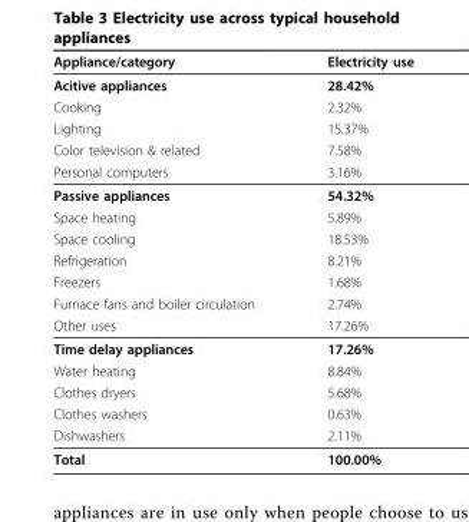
<table><thead><tr><td>Appliance/category</td><td>Electricity use</td></tr></thead><tbody><tr><td>Acitive appliances</td><td>28.42%</td></tr><tr><td>Cooking</td><td>2.32%</td></tr><tr><td>Lighting</td><td>15.37%</td></tr><tr><td>Color television &amp; related</td><td>7.58%</td></tr><tr><td>Personal computers</td><td>3.16%</td></tr><tr><td>Passive appliances</td><td>54.32%</td></tr><tr><td>Space heating</td><td>5.89%</td></tr><tr><td>Space cooling</td><td>18.53%</td></tr><tr><td>Refrigeration</td><td>8.21%</td></tr><tr><td>Freezers</td><td>1.68%</td></tr><tr><td>Furnace fans and boiler circulation</td><td>2.74%</td></tr><tr><td>Other uses</td><td>17.26%</td></tr><tr><td>Time delay appliances</td><td>17.26%</td></tr><tr><td>Water heating</td><td>8.84%</td></tr><tr><td>Clothes dryers</td><td>5.68%</td></tr><tr><td>Clothes washers</td><td>0.63%</td></tr><tr><td>Dishwashers</td><td>2.11%</td></tr><tr><td>Total</td><td>100.00%</td></tr></tbody></table>